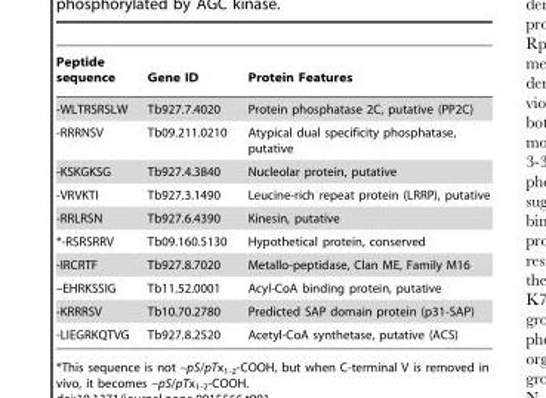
<table><thead><tr><td>Peptide sequence</td><td>Gene ID</td><td>Protein Features</td></tr></thead><tbody><tr><td>-WLTRSRSLW</td><td>Tb927.7.4020</td><td>Protein phosphatase 2C, putative (PP2C)</td></tr><tr><td>-RRRNSV</td><td>Tb09.211.0210</td><td>Atypical dual specificity phosphatase, putative</td></tr><tr><td>-KSKGKSG</td><td>Tb927.4.3840</td><td>Nucleolar protein, putative</td></tr><tr><td>-VRVKTI</td><td>Tb927.3.1490</td><td>Leucine-rich repeat protein (LRRP), putative</td></tr><tr><td>-RRLRSN</td><td>Tb927.6.4390</td><td>Kinesin, putative</td></tr><tr><td>*-RSRSRRV</td><td>Tb09.160.5130</td><td>Hypothetical protein, conserved</td></tr><tr><td>-IRCRTF</td><td>Tb927.8.7020</td><td>Metallo-peptidase, Clan ME, Family M16</td></tr><tr><td>–EHRKSSIG</td><td>Tb11.52.0001</td><td>Acyl-CoA binding protein, putative</td></tr><tr><td>-KRRRSV</td><td>Tb10.70.2780</td><td>Predicted SAP domain protein (p31-SAP)</td></tr><tr><td>-LIEGRKQTVG</td><td>Tb927.8.2520</td><td>Acetyl-CoA synthetase, putative (ACS)</td></tr></tbody></table>